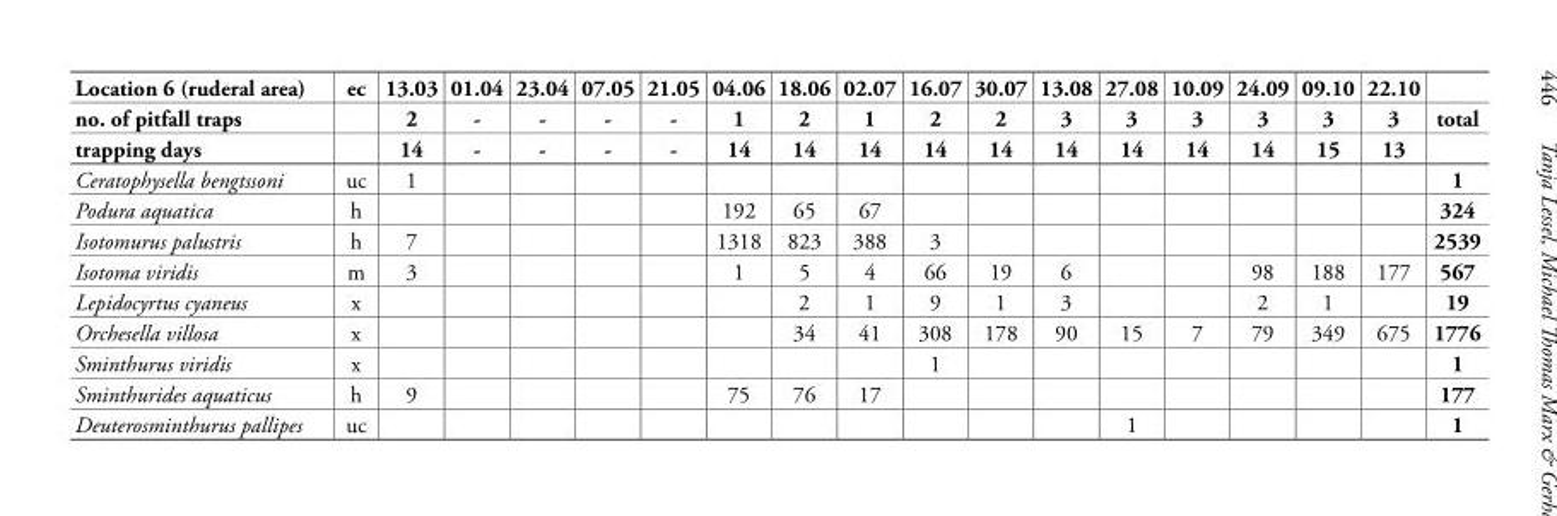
<table><tbody><tr><td>Location 6 (ruderal area)</td><td>ec</td><td>13.03</td><td>01.04</td><td>23.04</td><td>07.05</td><td>21.05</td><td>04.06</td><td>18.06</td><td>02.07</td><td>16.07</td><td>30.07</td><td>13.08</td><td>27.08</td><td>10.09</td><td>24.09</td><td>09.10</td><td>22.10</td><td></td></tr><tr><td>no. of pitfall traps</td><td></td><td>2</td><td>-</td><td>-</td><td>-</td><td>-</td><td>1</td><td>2</td><td>1</td><td>2</td><td>2</td><td>3</td><td>3</td><td>3</td><td>3</td><td>3</td><td>3</td><td>total</td></tr><tr><td>trapping days</td><td></td><td>14</td><td>-</td><td>-</td><td>-</td><td>-</td><td>14</td><td>14</td><td>14</td><td>14</td><td>14</td><td>14</td><td>14</td><td>14</td><td>14</td><td>15</td><td>13</td><td></td></tr><tr><td>Ceratophysella bengtssoni</td><td>uc</td><td>1</td><td></td><td></td><td></td><td></td><td></td><td></td><td></td><td></td><td></td><td></td><td></td><td></td><td></td><td></td><td></td><td>1</td></tr><tr><td>Podura aquatica</td><td>h</td><td></td><td></td><td></td><td></td><td></td><td>192</td><td>65</td><td>67</td><td></td><td></td><td></td><td></td><td></td><td></td><td></td><td></td><td>324</td></tr><tr><td>Isotomurus palustris</td><td>h</td><td>7</td><td></td><td></td><td></td><td></td><td>1318</td><td>823</td><td>388</td><td>3</td><td></td><td></td><td></td><td></td><td></td><td></td><td></td><td>2539</td></tr><tr><td>Isotoma viridis</td><td>m</td><td>3</td><td></td><td></td><td></td><td></td><td>1</td><td>5</td><td>4</td><td>66</td><td>19</td><td>6</td><td></td><td></td><td>98</td><td>188</td><td>177</td><td>567</td></tr><tr><td>Lepidocyrtus cyaneus</td><td>x</td><td></td><td></td><td></td><td></td><td></td><td></td><td>2</td><td>1</td><td>9</td><td>1</td><td>3</td><td></td><td></td><td>2</td><td>1</td><td></td><td>19</td></tr><tr><td>Orchesella villosa</td><td>x</td><td></td><td></td><td></td><td></td><td></td><td></td><td>34</td><td>41</td><td>308</td><td>178</td><td>90</td><td>15</td><td>7</td><td>79</td><td>349</td><td>675</td><td>1776</td></tr><tr><td>Sminthurus viridis</td><td>x</td><td></td><td></td><td></td><td></td><td></td><td></td><td></td><td></td><td>1</td><td></td><td></td><td></td><td></td><td></td><td></td><td></td><td>1</td></tr><tr><td>Sminthurides aquaticus</td><td>h</td><td>9</td><td></td><td></td><td></td><td></td><td>75</td><td>76</td><td>17</td><td></td><td></td><td></td><td></td><td></td><td></td><td></td><td></td><td>177</td></tr><tr><td>Deuterosminthurus pallipes</td><td>uc</td><td></td><td></td><td></td><td></td><td></td><td></td><td></td><td></td><td></td><td></td><td></td><td>1</td><td></td><td></td><td></td><td></td><td>1</td></tr></tbody></table>